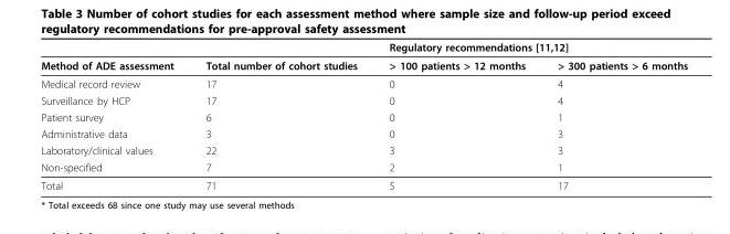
<table><thead><tr><td rowspan="2">Method of ADE assessment</td><td rowspan="2">Total number of cohort studies</td><td colspan="2">Regulatory recommendations [11,12]</td></tr><tr><td>&gt; 100 patients &gt; 12 months</td><td>&gt; 300 patients &gt; 6 months</td></tr></thead><tbody><tr><td>Medical record review</td><td>17</td><td>0</td><td>4</td></tr><tr><td>Surveillance by HCP</td><td>17</td><td>0</td><td>4</td></tr><tr><td>Patient survey</td><td>6</td><td>0</td><td>1</td></tr><tr><td>Administrative data</td><td>3</td><td>0</td><td>3</td></tr><tr><td>Laboratory/clinical values</td><td>22</td><td>3</td><td>3</td></tr><tr><td>Non-specified</td><td>7</td><td>2</td><td>1</td></tr><tr><td>Total</td><td>71</td><td>5</td><td>17</td></tr></tbody></table>